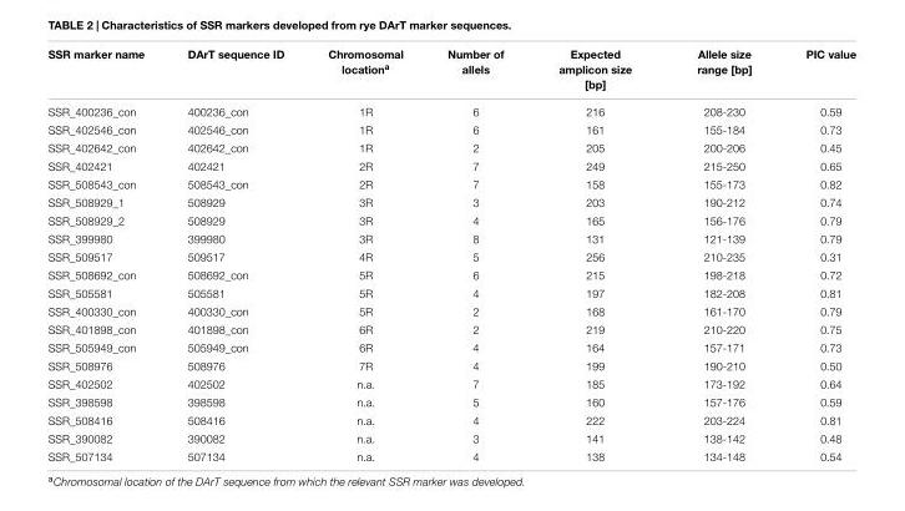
<table><thead><tr><td>SSR marker name</td><td>DArT sequence ID</td><td>Chromosomal location<sup>a</sup></td><td>Number of allels</td><td>Expected amplicon size [bp]</td><td>Allele size range [bp]</td><td>PIC value</td></tr></thead><tbody><tr><td>SSR_400236_con</td><td>400236_con</td><td>1R</td><td>6</td><td>216</td><td>208-230</td><td>0.59</td></tr><tr><td>SSR_402546_con</td><td>402546_con</td><td>1R</td><td>6</td><td>161</td><td>155-184</td><td>0.73</td></tr><tr><td>SSR_402642_con</td><td>402642_con</td><td>1R</td><td>2</td><td>205</td><td>200-206</td><td>0.45</td></tr><tr><td>SSR_402421</td><td>402421</td><td>2R</td><td>7</td><td>249</td><td>215-250</td><td>0.65</td></tr><tr><td>SSR_508543_con</td><td>508543_con</td><td>2R</td><td>7</td><td>158</td><td>155-173</td><td>0.82</td></tr><tr><td>SSR_508929_1</td><td>508929</td><td>3R</td><td>3</td><td>203</td><td>190-212</td><td>0.74</td></tr><tr><td>SSR_508929_2</td><td>508929</td><td>3R</td><td>4</td><td>165</td><td>156-176</td><td>0.79</td></tr><tr><td>SSR_399980</td><td>399980</td><td>3R</td><td>8</td><td>131</td><td>121-139</td><td>0.79</td></tr><tr><td>SSR_509517</td><td>509517</td><td>4R</td><td>5</td><td>256</td><td>210-235</td><td>0.31</td></tr><tr><td>SSR_508692_con</td><td>508692_con</td><td>5R</td><td>6</td><td>215</td><td>198-218</td><td>0.72</td></tr><tr><td>SSR_505581</td><td>505581</td><td>5R</td><td>4</td><td>197</td><td>182-208</td><td>0.81</td></tr><tr><td>SSR_400330_con</td><td>400330_con</td><td>5R</td><td>2</td><td>168</td><td>161-170</td><td>0.79</td></tr><tr><td>SSR_401898_con</td><td>401898_con</td><td>6R</td><td>2</td><td>219</td><td>210-220</td><td>0.75</td></tr><tr><td>SSR_505949_con</td><td>505949_con</td><td>6R</td><td>4</td><td>164</td><td>157-171</td><td>0.73</td></tr><tr><td>SSR_508976</td><td>508976</td><td>7R</td><td>4</td><td>199</td><td>190-210</td><td>0.50</td></tr><tr><td>SSR_402502</td><td>402502</td><td>n.a.</td><td>7</td><td>185</td><td>173-192</td><td>0.64</td></tr><tr><td>SSR_398598</td><td>398598</td><td>n.a.</td><td>5</td><td>160</td><td>157-176</td><td>0.59</td></tr><tr><td>SSR_508416</td><td>508416</td><td>n.a.</td><td>4</td><td>222</td><td>203-224</td><td>0.81</td></tr><tr><td>SSR_390082</td><td>390082</td><td>n.a.</td><td>3</td><td>141</td><td>138-142</td><td>0.48</td></tr><tr><td>SSR_507134</td><td>507134</td><td>n.a.</td><td>4</td><td>138</td><td>134-148</td><td>0.54</td></tr></tbody></table>